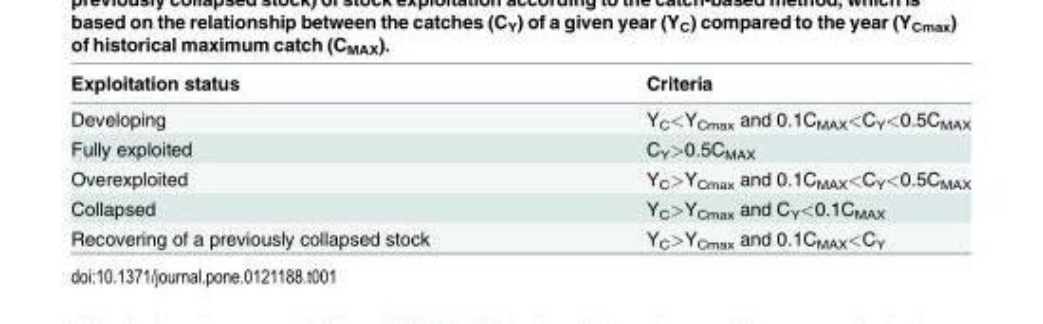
<table><thead><tr><td>Exploitation status</td><td>Criteria</td></tr></thead><tbody><tr><td>Developing</td><td>Y<sub>C</sub>&lt;Y<sub>Cmax</sub> and 0.1C<sub>MAX</sub>&lt;C<sub>Y</sub>&lt;0.5C<sub>MAX</sub></td></tr><tr><td>Fully exploited</td><td>C<sub>Y</sub>&gt;0.5C<sub>MAX</sub></td></tr><tr><td>Overexploited</td><td>Y<sub>C</sub>&gt;Y<sub>Cmax</sub> and 0.1C<sub>MAX</sub>&lt;C<sub>Y</sub>&lt;0.5C<sub>MAX</sub></td></tr><tr><td>Collapsed</td><td>Y<sub>C</sub>&gt;Y<sub>Cmax</sub> and C<sub>Y</sub>&lt;0.1C<sub>MAX</sub></td></tr><tr><td>Recovering of a previously collapsed stock</td><td>Y<sub>C</sub>&gt;Y<sub>Cmax</sub> and 0.1C<sub>MAX</sub>&lt;C<sub>Y</sub></td></tr></tbody></table>